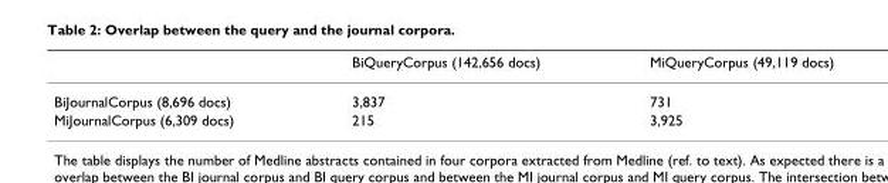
<table><thead><tr><td></td><td>BiQueryCorpus (142,656 docs)</td><td>MiQueryCorpus (49,119 docs)</td></tr></thead><tbody><tr><td>BiJournalCorpus (8,696 docs)</td><td>3,837</td><td>731</td></tr><tr><td>MiJournalCorpus (6,309 docs)</td><td>215</td><td>3,925</td></tr></tbody></table>